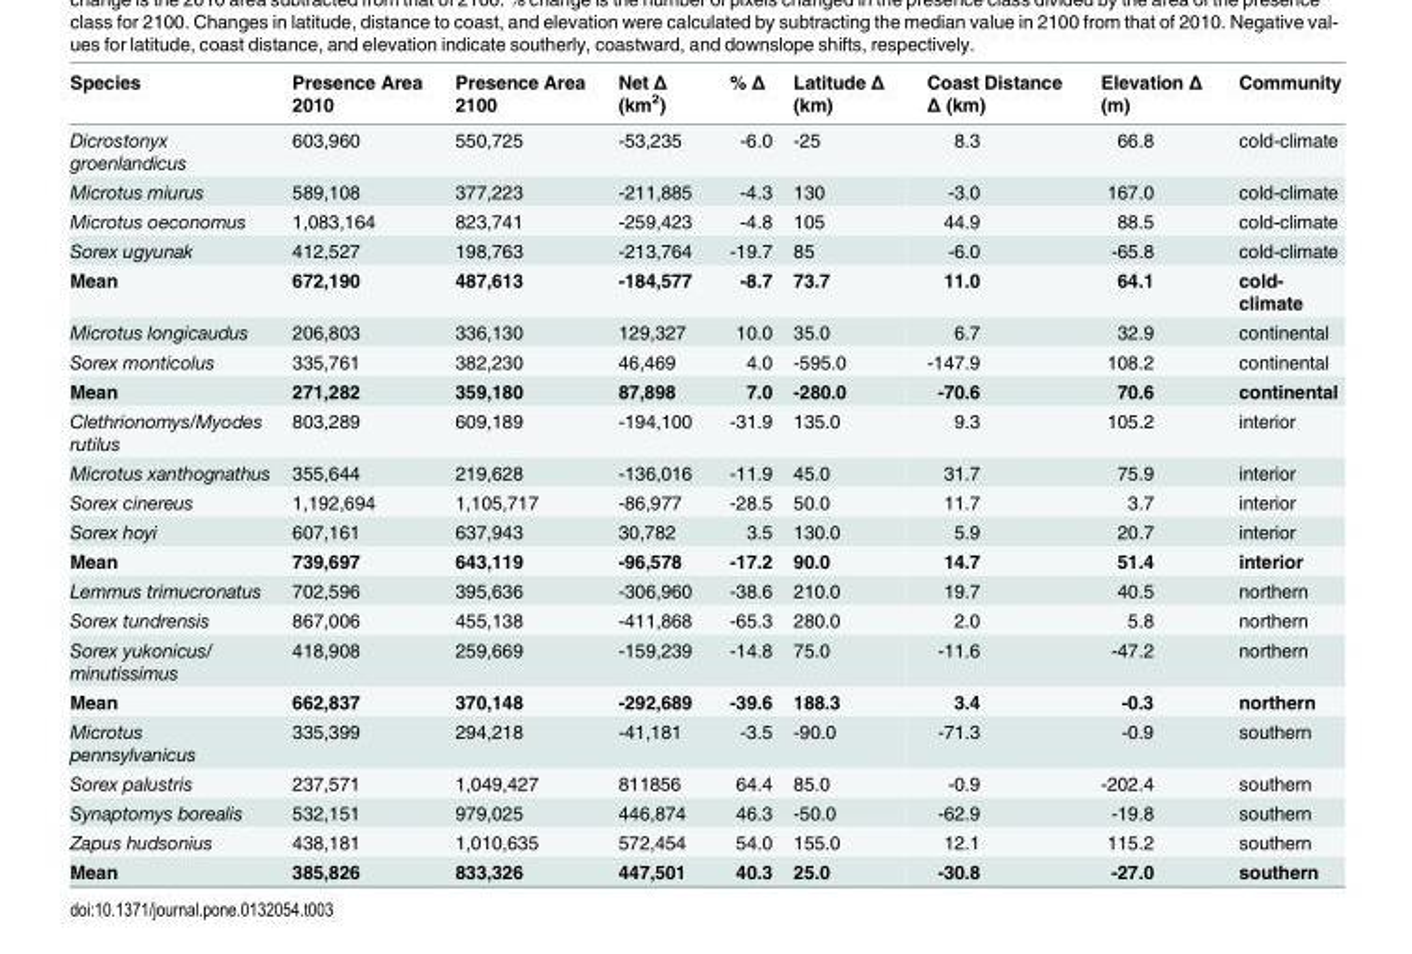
<table><thead><tr><td>Species</td><td>Presence Area 2010</td><td>Presence Area 2100</td><td>Net Δ (km<sup>2</sup>)</td><td>% Δ</td><td>Latitude Δ (km)</td><td>Coast Distance Δ (km)</td><td>Elevation Δ (m)</td><td>Community</td></tr></thead><tbody><tr><td>Dicrostonyx groenlandicus</td><td>603,960</td><td>550,725</td><td>-53,235</td><td>-6.0</td><td>-25</td><td>8.3</td><td>66.8</td><td>cold-climate</td></tr><tr><td>Microtus miurus</td><td>589,108</td><td>377,223</td><td>-211,885</td><td>-4.3</td><td>130</td><td>-3.0</td><td>167.0</td><td>cold-climate</td></tr><tr><td>Microtus oeconomus</td><td>1,083,164</td><td>823,741</td><td>-259,423</td><td>-4.8</td><td>105</td><td>44.9</td><td>88.5</td><td>cold-climate</td></tr><tr><td>Sorex ugyunak</td><td>412,527</td><td>198,763</td><td>-213,764</td><td>-19.7</td><td>85</td><td>-6.0</td><td>-65.8</td><td>cold-climate</td></tr><tr><td>Mean</td><td>672,190</td><td>487,613</td><td>-184,577</td><td>-8.7</td><td>73.7</td><td>11.0</td><td>64.1</td><td>cold- climate</td></tr><tr><td>Microtus longicaudus</td><td>206,803</td><td>336,130</td><td>129,327</td><td>10.0</td><td>35.0</td><td>6.7</td><td>32.9</td><td>continental</td></tr><tr><td>Sorex monticolus</td><td>335,761</td><td>382,230</td><td>46,469</td><td>4.0</td><td>-595.0</td><td>-147.9</td><td>108.2</td><td>continental</td></tr><tr><td>Mean</td><td>271,282</td><td>359,180</td><td>87,898</td><td>7.0</td><td>-280.0</td><td>-70.6</td><td>70.6</td><td>continental</td></tr><tr><td>Clethrionomys/Myodes rutilus</td><td>803,289</td><td>609,189</td><td>-194,100</td><td>-31.9</td><td>135.0</td><td>9.3</td><td>105.2</td><td>interior</td></tr><tr><td>Microtus xanthognathus</td><td>355,644</td><td>219,628</td><td>-136,016</td><td>-11.9</td><td>45.0</td><td>31.7</td><td>75.9</td><td>interior</td></tr><tr><td>Sorex cinereus</td><td>1,192,694</td><td>1,105,717</td><td>-86,977</td><td>-28.5</td><td>50.0</td><td>11.7</td><td>3.7</td><td>interior</td></tr><tr><td>Sorex hoyi</td><td>607,161</td><td>637,943</td><td>30,782</td><td>3.5</td><td>130.0</td><td>5.9</td><td>20.7</td><td>interior</td></tr><tr><td>Mean</td><td>739,697</td><td>643,119</td><td>-96,578</td><td>-17.2</td><td>90.0</td><td>14.7</td><td>51.4</td><td>interior</td></tr><tr><td>Lemmus trimucronatus</td><td>702,596</td><td>395,636</td><td>-306,960</td><td>-38.6</td><td>210.0</td><td>19.7</td><td>40.5</td><td>northern</td></tr><tr><td>Sorex tundrensis</td><td>867,006</td><td>455,138</td><td>-411,868</td><td>-65.3</td><td>280.0</td><td>2.0</td><td>5.8</td><td>northern</td></tr><tr><td>Sorex yukonicus/ minutissimus</td><td>418,908</td><td>259,669</td><td>-159,239</td><td>-14.8</td><td>75.0</td><td>-11.6</td><td>-47.2</td><td>northern</td></tr><tr><td>Mean</td><td>662,837</td><td>370,148</td><td>-292,689</td><td>-39.6</td><td>188.3</td><td>3.4</td><td>-0.3</td><td>northern</td></tr><tr><td>Microtus pennsylvanicus</td><td>335,399</td><td>294,218</td><td>-41,181</td><td>-3.5</td><td>-90.0</td><td>-71.3</td><td>-0.9</td><td>southern</td></tr><tr><td>Sorex palustris</td><td>237,571</td><td>1,049,427</td><td>811856</td><td>64.4</td><td>85.0</td><td>-0.9</td><td>-202.4</td><td>southern</td></tr><tr><td>Synaptomys borealis</td><td>532,151</td><td>979,025</td><td>446,874</td><td>46.3</td><td>-50.0</td><td>-62.9</td><td>-19.8</td><td>southern</td></tr><tr><td>Zapus hudsonius</td><td>438,181</td><td>1,010,635</td><td>572,454</td><td>54.0</td><td>155.0</td><td>12.1</td><td>115.2</td><td>southern</td></tr><tr><td>Mean</td><td>385,826</td><td>833,326</td><td>447,501</td><td>40.3</td><td>25.0</td><td>-30.8</td><td>-27.0</td><td>southern</td></tr></tbody></table>